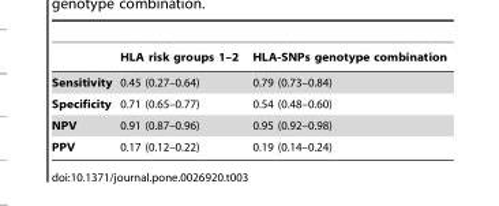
<table><thead><tr><td></td><td>HLA risk groups 1–2</td><td>HLA-SNPs genotype combination</td></tr></thead><tbody><tr><td>Sensitivity</td><td>0.45 (0.27–0.64)</td><td>0.79 (0.73–0.84)</td></tr><tr><td>Specificity</td><td>0.71 (0.65–0.77)</td><td>0.54 (0.48–0.60)</td></tr><tr><td>NPV</td><td>0.91 (0.87–0.96)</td><td>0.95 (0.92–0.98)</td></tr><tr><td>PPV</td><td>0.17 (0.12–0.22)</td><td>0.19 (0.14–0.24)</td></tr></tbody></table>